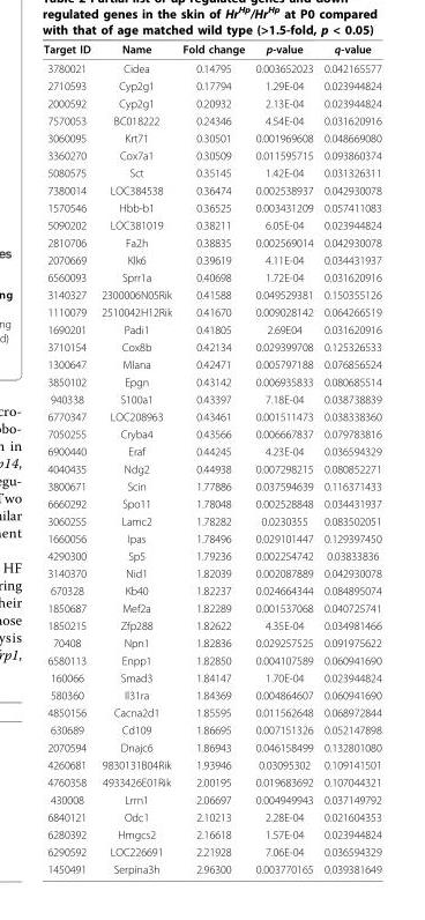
<table><thead><tr><td>Target ID</td><td>Name</td><td>Fold change</td><td>p-value</td><td>q-value</td></tr></thead><tbody><tr><td>3780021</td><td>Cidea</td><td>0.14795</td><td>0.003652023</td><td>0.042165577</td></tr><tr><td>2710593</td><td>Cyp2g1</td><td>0.17794</td><td>1.29E-04</td><td>0.023944824</td></tr><tr><td>2000592</td><td>Cyp2g1</td><td>0.20932</td><td>2.13E-04</td><td>0.023944824</td></tr><tr><td>7570053</td><td>BC018222</td><td>0.24346</td><td>4.54E-04</td><td>0.031620916</td></tr><tr><td>3060095</td><td>Krt71</td><td>0.30501</td><td>0.001969608</td><td>0.048669080</td></tr><tr><td>3360270</td><td>Cox7a1</td><td>0.30509</td><td>0.011595715</td><td>0.093860374</td></tr><tr><td>5080575</td><td>Sct</td><td>0.35145</td><td>1.42E-04</td><td>0.031326311</td></tr><tr><td>7380014</td><td>LOC384538</td><td>0.36474</td><td>0.002538937</td><td>0.042930078</td></tr><tr><td>1570546</td><td>Hbb-b1</td><td>0.36525</td><td>0.003431209</td><td>0.057411083</td></tr><tr><td>5090202</td><td>LOC381019</td><td>0.38211</td><td>6.05E-04</td><td>0.023944824</td></tr><tr><td>2810706</td><td>Fa2h</td><td>0.38835</td><td>0.002569014</td><td>0.042930078</td></tr><tr><td>2070669</td><td>Klk6</td><td>0.39619</td><td>4.11E-04</td><td>0.034431937</td></tr><tr><td>6560093</td><td>Sprr1a</td><td>0.40698</td><td>1.72E-04</td><td>0.031620916</td></tr><tr><td>3140327</td><td>2300006N05Rik</td><td>0.41588</td><td>0.049529381</td><td>0.150355126</td></tr><tr><td>1110079</td><td>2510042H12Rik</td><td>0.41670</td><td>0.009028142</td><td>0.064266519</td></tr><tr><td>1690201</td><td>Padi1</td><td>0.41805</td><td>2.69E04</td><td>0.031620916</td></tr><tr><td>3710154</td><td>Cox8b</td><td>0.42134</td><td>0.029399708</td><td>0.125326533</td></tr><tr><td>1300647</td><td>Mlana</td><td>0.42471</td><td>0.005797188</td><td>0.076856524</td></tr><tr><td>3850102</td><td>Epgn</td><td>0.43142</td><td>0.006935833</td><td>0.080685514</td></tr><tr><td>940338</td><td>S100a1</td><td>0.43397</td><td>7.18E-04</td><td>0.038738839</td></tr><tr><td>6770347</td><td>LOC208963</td><td>0.43461</td><td>0.001511473</td><td>0.038338360</td></tr><tr><td>7050255</td><td>Cryba4</td><td>0.43566</td><td>0.006667837</td><td>0.079783816</td></tr><tr><td>6900440</td><td>Eraf</td><td>0.44245</td><td>4.23E-04</td><td>0.036594329</td></tr><tr><td>4040435</td><td>Ndg2</td><td>0.44938</td><td>0.007298215</td><td>0.080852271</td></tr><tr><td>3800671</td><td>Scin</td><td>1.77886</td><td>0.037594639</td><td>0.116371433</td></tr><tr><td>6660292</td><td>Spo11</td><td>1.78048</td><td>0.002528848</td><td>0.034431937</td></tr><tr><td>3060255</td><td>Lamc2</td><td>1.78282</td><td>0.0230355</td><td>0.083502051</td></tr><tr><td>1660056</td><td>Ipas</td><td>1.78496</td><td>0.029101447</td><td>0.129397450</td></tr><tr><td>4290300</td><td>Sp5</td><td>1.79236</td><td>0.002254742</td><td>0.03833836</td></tr><tr><td>3140370</td><td>Nid1</td><td>1.82039</td><td>0.002087889</td><td>0.042930078</td></tr><tr><td>670328</td><td>Kb40</td><td>1.82237</td><td>0.024664344</td><td>0.084895074</td></tr><tr><td>1850687</td><td>Mef2a</td><td>1.82289</td><td>0.001537068</td><td>0.040725741</td></tr><tr><td>1850215</td><td>Zfp288</td><td>1.82622</td><td>4.35E-04</td><td>0.034981466</td></tr><tr><td>70408</td><td>Npn1</td><td>1.82836</td><td>0.029257525</td><td>0.091975622</td></tr><tr><td>6580113</td><td>Enpp1</td><td>1.82850</td><td>0.004107589</td><td>0.060941690</td></tr><tr><td>160066</td><td>Smad3</td><td>1.84147</td><td>1.70E-04</td><td>0.023944824</td></tr><tr><td>580360</td><td>Il31ra</td><td>1.84369</td><td>0.004864607</td><td>0.060941690</td></tr><tr><td>4850156</td><td>Cacna2d1</td><td>1.85595</td><td>0.011562648</td><td>0.068972844</td></tr><tr><td>630689</td><td>Cd109</td><td>1.86695</td><td>0.007151326</td><td>0.052147898</td></tr><tr><td>2070594</td><td>Dnajc6</td><td>1.86943</td><td>0.046158499</td><td>0.132801080</td></tr><tr><td>4260681</td><td>9830131B04Rik</td><td>1.93946</td><td>0.03095302</td><td>0.109141501</td></tr><tr><td>4760358</td><td>4933426E01Rik</td><td>2.00195</td><td>0.019683692</td><td>0.107044321</td></tr><tr><td>430008</td><td>Lrrn1</td><td>2.06697</td><td>0.004949943</td><td>0.037149792</td></tr><tr><td>6840121</td><td>Odc1</td><td>2.10213</td><td>2.28E-04</td><td>0.021604353</td></tr><tr><td>6280392</td><td>Hmgcs2</td><td>2.16618</td><td>1.57E-04</td><td>0.023944824</td></tr><tr><td>6290592</td><td>LOC226691</td><td>2.21928</td><td>7.06E-04</td><td>0.036594329</td></tr><tr><td>1450491</td><td>Serpina3h</td><td>2.96300</td><td>0.003770165</td><td>0.039381649</td></tr></tbody></table>